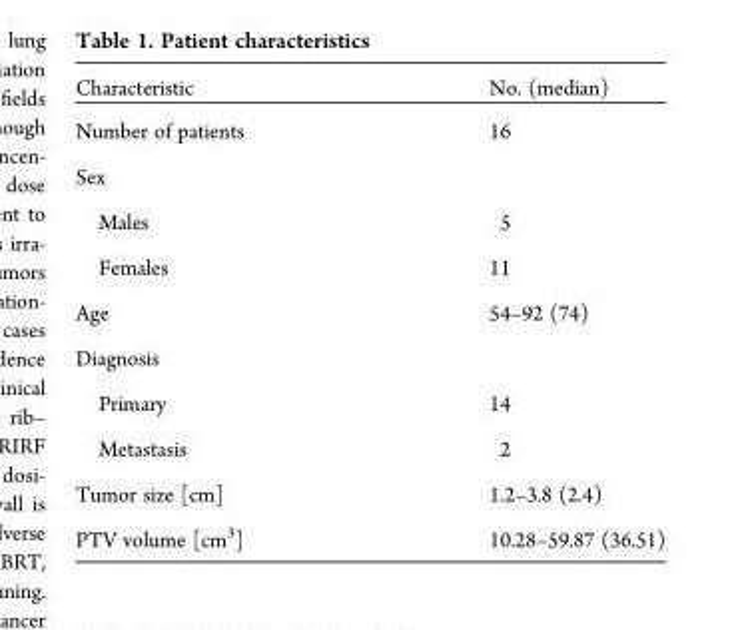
<table><thead><tr><td>Characteristic</td><td>No. (median)</td></tr></thead><tbody><tr><td>Number of patients</td><td>16</td></tr><tr><td colspan="2">Sex</td></tr><tr><td>Males</td><td>5</td></tr><tr><td>Females</td><td>11</td></tr><tr><td>Age</td><td>54–92 (74)</td></tr><tr><td colspan="2">Diagnosis</td></tr><tr><td>Primary</td><td>14</td></tr><tr><td>Metastasis</td><td>2</td></tr><tr><td>Tumor size [cm]</td><td>1.2–3.8 (2.4)</td></tr><tr><td>PTV volume [cm<sup>3</sup>]</td><td>10.28–59.87 (36.51)</td></tr></tbody></table>